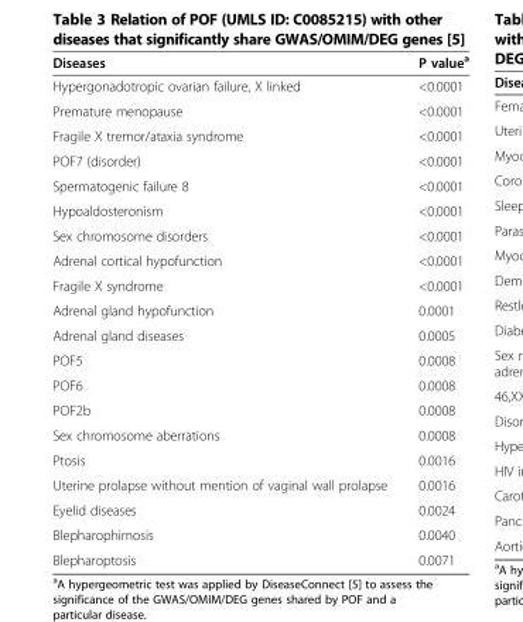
<table><thead><tr><td>Diseases</td><td>P value<sup>a</sup></td></tr></thead><tbody><tr><td>Hypergonadotropic ovarian failure, X linked</td><td>&lt;0.0001</td></tr><tr><td>Premature menopause</td><td>&lt;0.0001</td></tr><tr><td>Fragile X tremor/ataxia syndrome</td><td>&lt;0.0001</td></tr><tr><td>POF7 (disorder)</td><td>&lt;0.0001</td></tr><tr><td>Spermatogenic failure 8</td><td>&lt;0.0001</td></tr><tr><td>Hypoaldosteronism</td><td>&lt;0.0001</td></tr><tr><td>Sex chromosome disorders</td><td>&lt;0.0001</td></tr><tr><td>Adrenal cortical hypofunction</td><td>&lt;0.0001</td></tr><tr><td>Fragile X syndrome</td><td>&lt;0.0001</td></tr><tr><td>Adrenal gland hypofunction</td><td>0.0001</td></tr><tr><td>Adrenal gland diseases</td><td>0.0005</td></tr><tr><td>POF5</td><td>0.0008</td></tr><tr><td>POF6</td><td>0.0008</td></tr><tr><td>POF2b</td><td>0.0008</td></tr><tr><td>Sex chromosome aberrations</td><td>0.0008</td></tr><tr><td>Ptosis</td><td>0.0016</td></tr><tr><td>Uterine prolapse without mention of vaginal wall prolapse</td><td>0.0016</td></tr><tr><td>Eyelid diseases</td><td>0.0024</td></tr><tr><td>Blepharophimosis</td><td>0.0040</td></tr><tr><td>Blepharoptosis</td><td>0.0071</td></tr></tbody></table>